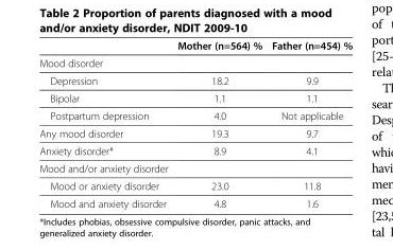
<table><thead><tr><td></td><td>Mother (n=564) %</td><td>Father (n=454) %</td></tr></thead><tbody><tr><td colspan="3">Mood disorder</td></tr><tr><td>Depression</td><td>18.2</td><td>9.9</td></tr><tr><td>Bipolar</td><td>1.1</td><td>1.1</td></tr><tr><td>Postpartum depression</td><td>4.0</td><td>Not applicable</td></tr><tr><td>Any mood disorder</td><td>19.3</td><td>9.7</td></tr><tr><td>Anxiety disorder*</td><td>8.9</td><td>4.1</td></tr><tr><td colspan="3">Mood and/or anxiety disorder</td></tr><tr><td>Mood or anxiety disorder</td><td>23.0</td><td>11.8</td></tr><tr><td>Mood and anxiety disorder</td><td>4.8</td><td>1.6</td></tr></tbody></table>